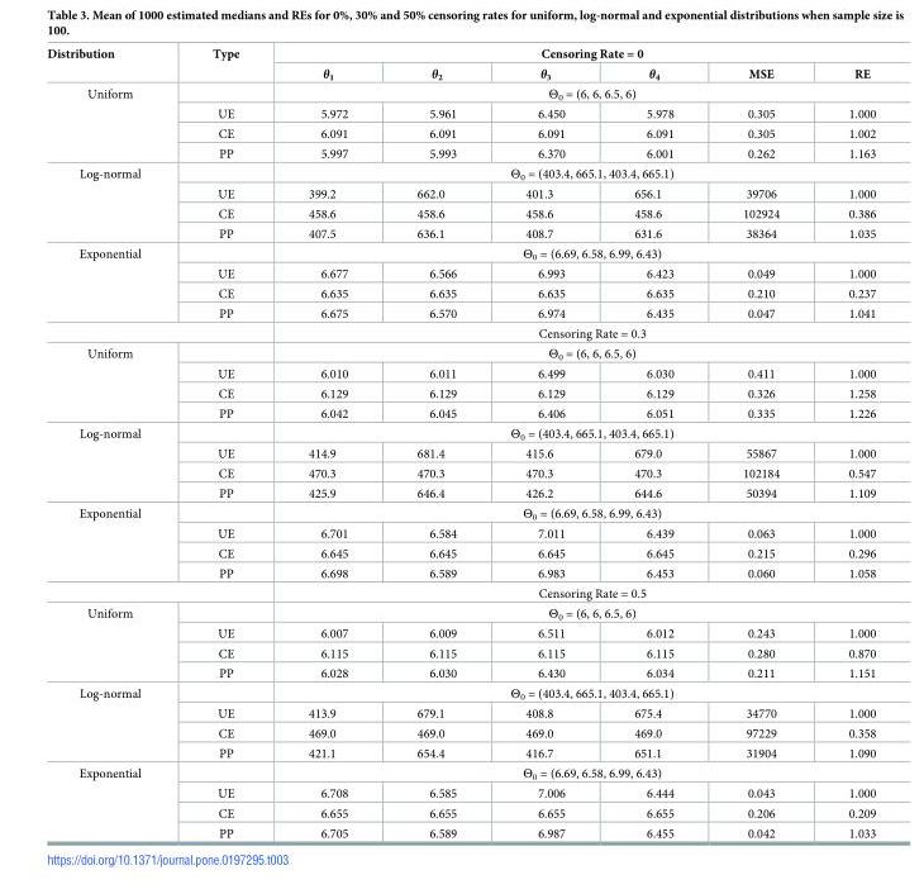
<table><thead><tr><td rowspan="2">Distribution</td><td rowspan="2">Type</td><td colspan="6">Censoring Rate = 0</td></tr><tr><td>θ<sub>1</sub></td><td>θ<sub>2</sub></td><td>θ<sub>3</sub></td><td>θ<sub>4</sub></td><td>MSE</td><td>RE</td></tr></thead><tbody><tr><td rowspan="4">Uniform</td><td></td><td colspan="6">Θ<sub>0</sub> = (6, 6, 6.5, 6)</td></tr><tr><td>UE</td><td>5.972</td><td>5.961</td><td>6.450</td><td>5.978</td><td>0.305</td><td>1.000</td></tr><tr><td>CE</td><td>6.091</td><td>6.091</td><td>6.091</td><td>6.091</td><td>0.305</td><td>1.002</td></tr><tr><td>PP</td><td>5.997</td><td>5.993</td><td>6.370</td><td>6.001</td><td>0.262</td><td>1.163</td></tr><tr><td rowspan="4">Log-normal</td><td></td><td colspan="6">Θ<sub>0</sub> = (403.4, 665.1, 403.4, 665.1)</td></tr><tr><td>UE</td><td>399.2</td><td>662.0</td><td>401.3</td><td>656.1</td><td>39706</td><td>1.000</td></tr><tr><td>CE</td><td>458.6</td><td>458.6</td><td>458.6</td><td>458.6</td><td>102924</td><td>0.386</td></tr><tr><td>PP</td><td>407.5</td><td>636.1</td><td>408.7</td><td>631.6</td><td>38364</td><td>1.035</td></tr><tr><td rowspan="4">Exponential</td><td></td><td colspan="6">Θ<sub>0</sub> = (6.69, 6.58, 6.99, 6.43)</td></tr><tr><td>UE</td><td>6.677</td><td>6.566</td><td>6.993</td><td>6.423</td><td>0.049</td><td>1.000</td></tr><tr><td>CE</td><td>6.635</td><td>6.635</td><td>6.635</td><td>6.635</td><td>0.210</td><td>0.237</td></tr><tr><td>PP</td><td>6.675</td><td>6.570</td><td>6.974</td><td>6.435</td><td>0.047</td><td>1.041</td></tr><tr><td colspan="2"></td><td colspan="6">Censoring Rate = 0.3</td></tr><tr><td rowspan="4">Uniform</td><td></td><td colspan="6">Θ<sub>0</sub> = (6, 6, 6.5, 6)</td></tr><tr><td>UE</td><td>6.010</td><td>6.011</td><td>6.499</td><td>6.030</td><td>0.411</td><td>1.000</td></tr><tr><td>CE</td><td>6.129</td><td>6.129</td><td>6.129</td><td>6.129</td><td>0.326</td><td>1.258</td></tr><tr><td>PP</td><td>6.042</td><td>6.045</td><td>6.406</td><td>6.051</td><td>0.335</td><td>1.226</td></tr><tr><td rowspan="4">Log-normal</td><td></td><td colspan="6">Θ<sub>0</sub> = (403.4, 665.1, 403.4, 665.1)</td></tr><tr><td>UE</td><td>414.9</td><td>681.4</td><td>415.6</td><td>679.0</td><td>55867</td><td>1.000</td></tr><tr><td>CE</td><td>470.3</td><td>470.3</td><td>470.3</td><td>470.3</td><td>102184</td><td>0.547</td></tr><tr><td>PP</td><td>425.9</td><td>646.4</td><td>426.2</td><td>644.6</td><td>50394</td><td>1.109</td></tr><tr><td rowspan="4">Exponential</td><td></td><td colspan="6">Θ<sub>0</sub> = (6.69, 6.58, 6.99, 6.43)</td></tr><tr><td>UE</td><td>6.701</td><td>6.584</td><td>7.011</td><td>6.439</td><td>0.063</td><td>1.000</td></tr><tr><td>CE</td><td>6.645</td><td>6.645</td><td>6.645</td><td>6.645</td><td>0.215</td><td>0.296</td></tr><tr><td>PP</td><td>6.698</td><td>6.589</td><td>6.983</td><td>6.453</td><td>0.060</td><td>1.058</td></tr><tr><td colspan="2"></td><td colspan="6">Censoring Rate = 0.5</td></tr><tr><td rowspan="4">Uniform</td><td></td><td colspan="6">Θ<sub>0</sub> = (6, 6, 6.5, 6)</td></tr><tr><td>UE</td><td>6.007</td><td>6.009</td><td>6.511</td><td>6.012</td><td>0.243</td><td>1.000</td></tr><tr><td>CE</td><td>6.115</td><td>6.115</td><td>6.115</td><td>6.115</td><td>0.280</td><td>0.870</td></tr><tr><td>PP</td><td>6.028</td><td>6.030</td><td>6.430</td><td>6.034</td><td>0.211</td><td>1.151</td></tr><tr><td rowspan="4">Log-normal</td><td></td><td colspan="6">Θ<sub>0</sub> = (403.4, 665.1, 403.4, 665.1)</td></tr><tr><td>UE</td><td>413.9</td><td>679.1</td><td>408.8</td><td>675.4</td><td>34770</td><td>1.000</td></tr><tr><td>CE</td><td>469.0</td><td>469.0</td><td>469.0</td><td>469.0</td><td>97229</td><td>0.358</td></tr><tr><td>PP</td><td>421.1</td><td>654.4</td><td>416.7</td><td>651.1</td><td>31904</td><td>1.090</td></tr><tr><td rowspan="4">Exponential</td><td></td><td colspan="6">Θ<sub>0</sub> = (6.69, 6.58, 6.99, 6.43)</td></tr><tr><td>UE</td><td>6.708</td><td>6.585</td><td>7.006</td><td>6.444</td><td>0.043</td><td>1.000</td></tr><tr><td>CE</td><td>6.655</td><td>6.655</td><td>6.655</td><td>6.655</td><td>0.206</td><td>0.209</td></tr><tr><td>PP</td><td>6.705</td><td>6.589</td><td>6.987</td><td>6.455</td><td>0.042</td><td>1.033</td></tr></tbody></table>